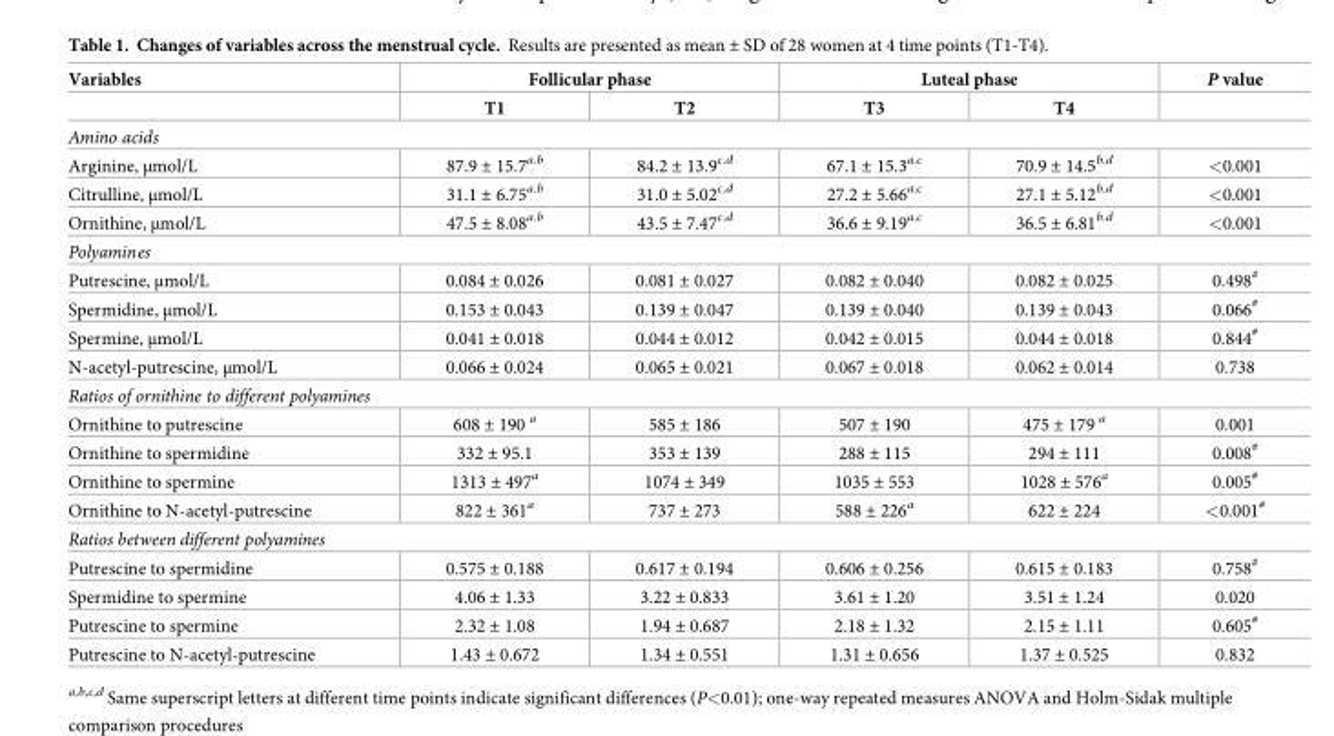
<table><thead><tr><td rowspan="2">Variables</td><td colspan="2">Follicular phase</td><td colspan="2">Luteal phase</td><td rowspan="2">P value</td></tr><tr><td>T1</td><td>T2</td><td>T3</td><td>T4</td></tr></thead><tbody><tr><td colspan="6">Amino acids</td></tr><tr><td>Arginine, μmol/L</td><td>87.9 ± 15.7<sup>a.b</sup></td><td>84.2 ± 13.9<sup>c.d</sup></td><td>67.1 ± 15.3<sup>a.c</sup></td><td>70.9 ± 14.5<sup>b.d</sup></td><td>&lt;0.001</td></tr><tr><td>Citrulline, μmol/L</td><td>31.1 ± 6.75<sup>a.b</sup></td><td>31.0 ± 5.02<sup>c.d</sup></td><td>27.2 ± 5.66<sup>a.c</sup></td><td>27.1 ± 5.12<sup>b.d</sup></td><td>&lt;0.001</td></tr><tr><td>Ornithine, μmol/L</td><td>47.5 ± 8.08<sup>a.b</sup></td><td>43.5 ± 7.47<sup>c.d</sup></td><td>36.6 ± 9.19<sup>a.c</sup></td><td>36.5 ± 6.81<sup>b.d</sup></td><td>&lt;0.001</td></tr><tr><td colspan="6">Polyamines</td></tr><tr><td>Putrescine, μmol/L</td><td>0.084 ± 0.026</td><td>0.081 ± 0.027</td><td>0.082 ± 0.040</td><td>0.082 ± 0.025</td><td>0.498<sup>#</sup></td></tr><tr><td>Spermidine, μmol/L</td><td>0.153 ± 0.043</td><td>0.139 ± 0.047</td><td>0.139 ± 0.040</td><td>0.139 ± 0.043</td><td>0.066<sup>#</sup></td></tr><tr><td>Spermine, μmol/L</td><td>0.041 ± 0.018</td><td>0.044 ± 0.012</td><td>0.042 ± 0.015</td><td>0.044 ± 0.018</td><td>0.844<sup>#</sup></td></tr><tr><td>N-acetyl-putrescine, μmol/L</td><td>0.066 ± 0.024</td><td>0.065 ± 0.021</td><td>0.067 ± 0.018</td><td>0.062 ± 0.014</td><td>0.738</td></tr><tr><td colspan="6">Ratios of ornithine to different polyamines</td></tr><tr><td>Ornithine to putrescine</td><td>608 ± 190 <sup>a</sup></td><td>585 ± 186</td><td>507 ± 190</td><td>475 ± 179 <sup>a</sup></td><td>0.001</td></tr><tr><td>Ornithine to spermidine</td><td>332 ± 95.1</td><td>353 ± 139</td><td>288 ± 115</td><td>294 ± 111</td><td>0.008<sup>#</sup></td></tr><tr><td>Ornithine to spermine</td><td>1313 ± 497<sup>a</sup></td><td>1074 ± 349</td><td>1035 ± 553</td><td>1028 ± 576<sup>a</sup></td><td>0.005<sup>#</sup></td></tr><tr><td>Ornithine to N-acetyl-putrescine</td><td>822 ± 361<sup>a</sup></td><td>737 ± 273</td><td>588 ± 226<sup>a</sup></td><td>622 ± 224</td><td>&lt;0.001<sup>#</sup></td></tr><tr><td colspan="6">Ratios between different polyamines</td></tr><tr><td>Putrescine to spermidine</td><td>0.575 ± 0.188</td><td>0.617 ± 0.194</td><td>0.606 ± 0.256</td><td>0.615 ± 0.183</td><td>0.758<sup>#</sup></td></tr><tr><td>Spermidine to spermine</td><td>4.06 ± 1.33</td><td>3.22 ± 0.833</td><td>3.61 ± 1.20</td><td>3.51 ± 1.24</td><td>0.020</td></tr><tr><td>Putrescine to spermine</td><td>2.32 ± 1.08</td><td>1.94 ± 0.687</td><td>2.18 ± 1.32</td><td>2.15 ± 1.11</td><td>0.605<sup>#</sup></td></tr><tr><td>Putrescine to N-acetyl-putrescine</td><td>1.43 ± 0.672</td><td>1.34 ± 0.551</td><td>1.31 ± 0.656</td><td>1.37 ± 0.525</td><td>0.832</td></tr></tbody></table>